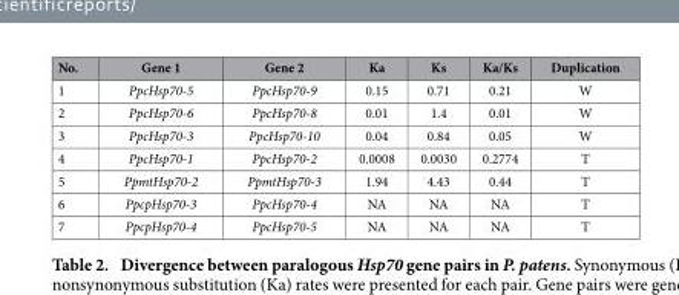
<table><thead><tr><td>No.</td><td>Gene 1</td><td>Gene 2</td><td>Ka</td><td>Ks</td><td>Ka/Ks</td><td>Duplication</td></tr></thead><tbody><tr><td>1</td><td>PpcHsp70-5</td><td>PpcHsp70-9</td><td>0.15</td><td>0.71</td><td>0.21</td><td>W</td></tr><tr><td>2</td><td>PpcHsp70-6</td><td>PpcHsp70-8</td><td>0.01</td><td>1.4</td><td>0.01</td><td>W</td></tr><tr><td>3</td><td>PpcHsp70-3</td><td>PpcHsp70-10</td><td>0.04</td><td>0.84</td><td>0.05</td><td>W</td></tr><tr><td>4</td><td>PpcHsp70-1</td><td>PpcHsp70-2</td><td>0.0008</td><td>0.0030</td><td>0.2774</td><td>T</td></tr><tr><td>5</td><td>PpmtHsp70-2</td><td>PpmtHsp70-3</td><td>1.94</td><td>4.43</td><td>0.44</td><td>T</td></tr><tr><td>6</td><td>PpcpHsp70-3</td><td>PpcHsp70-4</td><td>NA</td><td>NA</td><td>NA</td><td>T</td></tr><tr><td>7</td><td>PpcpHsp70-4</td><td>PpcHsp70-5</td><td>NA</td><td>NA</td><td>NA</td><td>T</td></tr></tbody></table>